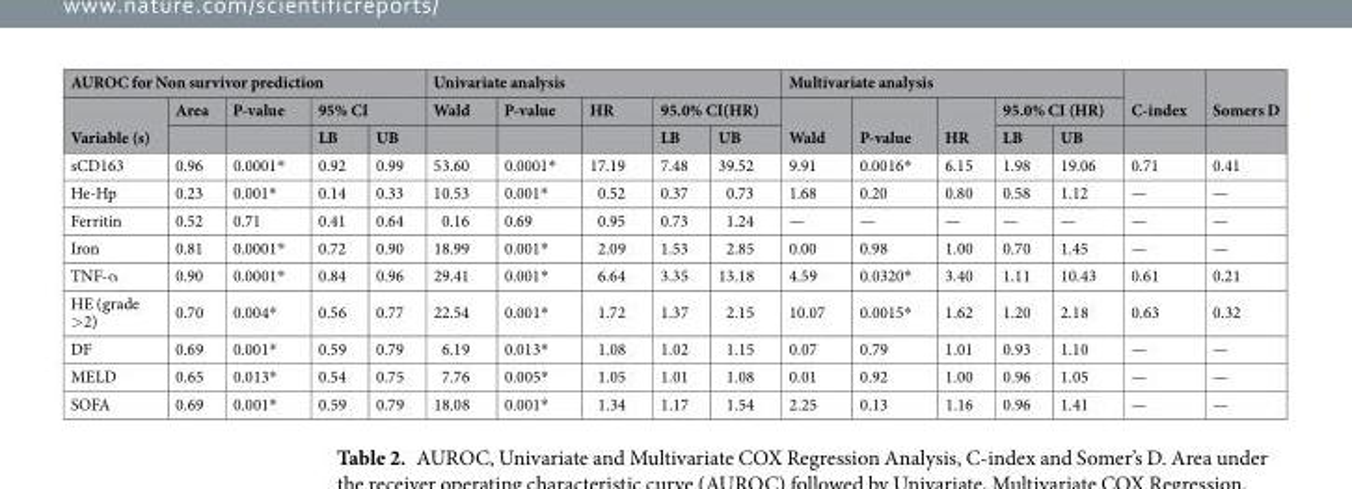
<table><thead><tr><td colspan="5">AUROC for Non survivor prediction</td><td colspan="5">Univariate analysis</td><td colspan="5">Multivariate analysis</td><td rowspan="3">C-index</td><td rowspan="3">Somers D</td></tr><tr><td rowspan="2">Variable (s)</td><td rowspan="2">Area</td><td rowspan="2">P-value</td><td colspan="2">95% CI</td><td rowspan="2">Wald</td><td rowspan="2">P-value</td><td rowspan="2">HR</td><td colspan="2">95.0% CI(HR)</td><td rowspan="2">Wald</td><td rowspan="2">P-value</td><td rowspan="2">HR</td><td colspan="2">95.0% CI (HR)</td></tr><tr><td>LB</td><td>UB</td><td>LB</td><td>UB</td><td>LB</td><td>UB</td></tr></thead><tbody><tr><td>sCD163</td><td>0.96</td><td>0.0001*</td><td>0.92</td><td>0.99</td><td>53.60</td><td>0.0001*</td><td>17.19</td><td>7.48</td><td>39.52</td><td>9.91</td><td>0.0016*</td><td>6.15</td><td>1.98</td><td>19.06</td><td>0.71</td><td>0.41</td></tr><tr><td>He-Hp</td><td>0.23</td><td>0.001*</td><td>0.14</td><td>0.33</td><td>10.53</td><td>0.001*</td><td>0.52</td><td>0.37</td><td>0.73</td><td>1.68</td><td>0.20</td><td>0.80</td><td>0.58</td><td>1.12</td><td>—</td><td>—</td></tr><tr><td>Ferritin</td><td>0.52</td><td>0.71</td><td>0.41</td><td>0.64</td><td>0.16</td><td>0.69</td><td>0.95</td><td>0.73</td><td>1.24</td><td>—</td><td>—</td><td>—</td><td>—</td><td>—</td><td>—</td><td>—</td></tr><tr><td>Iron</td><td>0.81</td><td>0.0001*</td><td>0.72</td><td>0.90</td><td>18.99</td><td>0.001*</td><td>2.09</td><td>1.53</td><td>2.85</td><td>0.00</td><td>0.98</td><td>1.00</td><td>0.70</td><td>1.45</td><td>—</td><td>—</td></tr><tr><td>TNF-α</td><td>0.90</td><td>0.0001*</td><td>0.84</td><td>0.96</td><td>29.41</td><td>0.001*</td><td>6.64</td><td>3.35</td><td>13.18</td><td>4.59</td><td>0.0320*</td><td>3.40</td><td>1.11</td><td>10.43</td><td>0.61</td><td>0.21</td></tr><tr><td>HE (grade &gt;2)</td><td>0.70</td><td>0.004*</td><td>0.56</td><td>0.77</td><td>22.54</td><td>0.001*</td><td>1.72</td><td>1.37</td><td>2.15</td><td>10.07</td><td>0.0015*</td><td>1.62</td><td>1.20</td><td>2.18</td><td>0.63</td><td>0.32</td></tr><tr><td>DF</td><td>0.69</td><td>0.001*</td><td>0.59</td><td>0.79</td><td>6.19</td><td>0.013*</td><td>1.08</td><td>1.02</td><td>1.15</td><td>0.07</td><td>0.79</td><td>1.01</td><td>0.93</td><td>1.10</td><td>—</td><td>—</td></tr><tr><td>MELD</td><td>0.65</td><td>0.013*</td><td>0.54</td><td>0.75</td><td>7.76</td><td>0.005*</td><td>1.05</td><td>1.01</td><td>1.08</td><td>0.01</td><td>0.92</td><td>1.00</td><td>0.96</td><td>1.05</td><td>—</td><td>—</td></tr><tr><td>SOFA</td><td>0.69</td><td>0.001*</td><td>0.59</td><td>0.79</td><td>18.08</td><td>0.001*</td><td>1.34</td><td>1.17</td><td>1.54</td><td>2.25</td><td>0.13</td><td>1.16</td><td>0.96</td><td>1.41</td><td>—</td><td>—</td></tr></tbody></table>